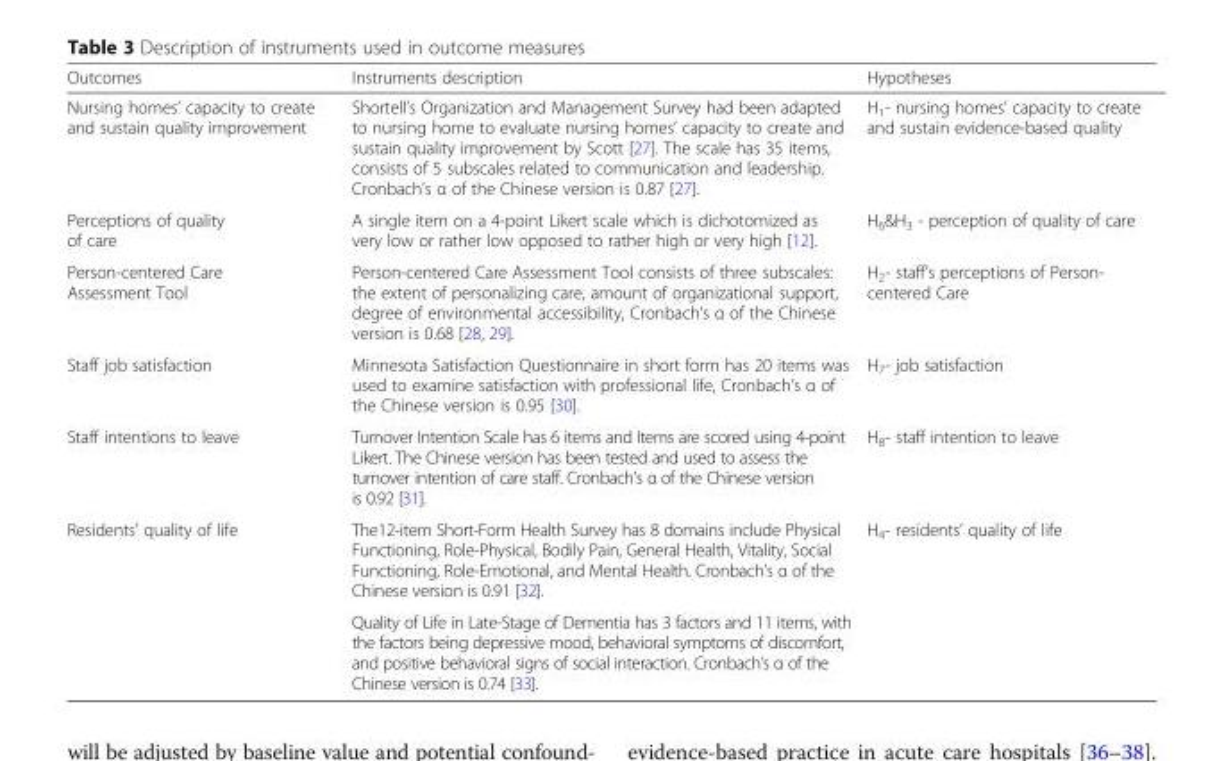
<table><thead><tr><td>Outcomes</td><td>Instruments description</td><td>Hypotheses</td></tr></thead><tbody><tr><td>Nursing homes’ capacity to create and sustain quality improvement</td><td>Shortell’s Organization and Management Survey had been adapted to nursing home to evaluate nursing homes’ capacity to create and sustain quality improvement by Scott [27]. The scale has 35 items, consists of 5 subscales related to communication and leadership. Cronbach’s α of the Chinese version is 0.87 [27].</td><td>H<sub>1</sub>- nursing homes’ capacity to create and sustain evidence-based quality</td></tr><tr><td>Perceptions of quality of care</td><td>A single item on a 4-point Likert scale which is dichotomized as very low or rather low opposed to rather high or very high [12].</td><td>H<sub>6</sub>&amp;H<sub>3</sub> - perception of quality of care</td></tr><tr><td>Person-centered Care Assessment Tool</td><td>Person-centered Care Assessment Tool consists of three subscales: the extent of personalizing care, amount of organizational support, degree of environmental accessibility, Cronbach’s α of the Chinese version is 0.68 [28, 29].</td><td>H<sub>2</sub>- staff’s perceptions of Person- centered Care</td></tr><tr><td>Staff job satisfaction</td><td>Minnesota Satisfaction Questionnaire in short form has 20 items was used to examine satisfaction with professional life, Cronbach’s α of the Chinese version is 0.95 [30].</td><td>H<sub>7</sub>- job satisfaction</td></tr><tr><td>Staff intentions to leave</td><td>Turnover Intention Scale has 6 items and Items are scored using 4-point Likert. The Chinese version has been tested and used to assess the turnover intention of care staff. Cronbach’s α of the Chinese version is 0.92 [31].</td><td>H<sub>8</sub>- staff intention to leave</td></tr><tr><td rowspan="2">Residents’ quality of life</td><td>The12-item Short-Form Health Survey has 8 domains include Physical Functioning, Role-Physical, Bodily Pain, General Health, Vitality, Social Functioning, Role-Emotional, and Mental Health. Cronbach’s α of the Chinese version is 0.91 [32].</td><td rowspan="2">H<sub>4</sub>- residents’ quality of life</td></tr><tr><td>Quality of Life in Late-Stage of Dementia has 3 factors and 11 items, with the factors being depressive mood, behavioral symptoms of discomfort, and positive behavioral signs of social interaction. Cronbach’s α of the Chinese version is 0.74 [33].</td></tr></tbody></table>